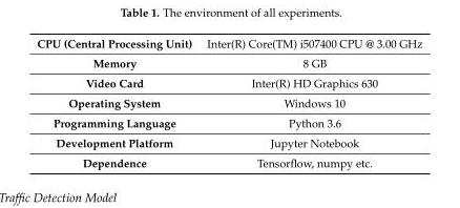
<table><tbody><tr><td>CPU (Central Processing Unit)</td><td>Inter(R) Core(TM) i507400 CPU @ 3.00 GHz</td></tr><tr><td>Memory</td><td>8 GB</td></tr><tr><td>Video Card</td><td>Inter(R) HD Graphics 630</td></tr><tr><td>Operating System</td><td>Windows 10</td></tr><tr><td>Programming Language</td><td>Python 3.6</td></tr><tr><td>Development Platform</td><td>Jupyter Notebook</td></tr><tr><td>Dependence</td><td>Tensorflow, numpy etc.</td></tr></tbody></table>